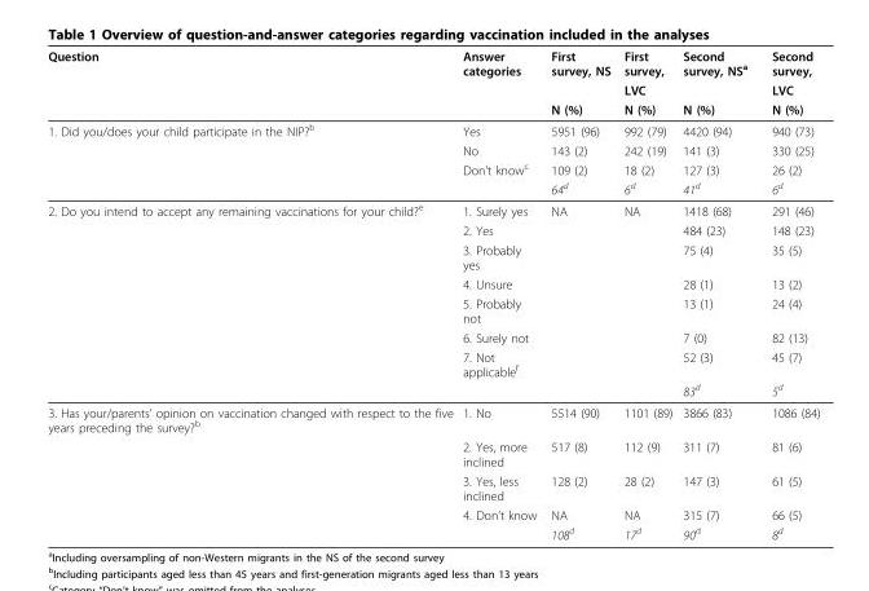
<table><thead><tr><td rowspan="3">Question</td><td rowspan="3">Answer categories</td><td rowspan="3">First survey, NS N (%)</td><td rowspan="3">First survey, LVC N (%)</td><td rowspan="3">Second survey, NSa N (%)</td><td rowspan="3">Second survey, LVC N (%)</td></tr><tr></tr><tr></tr></thead><tbody><tr><td rowspan="4">1. Did you/does your child participate in the NIP?b</td><td>Yes</td><td>5951 (96)</td><td>992 (79)</td><td>4420 (94)</td><td>940 (73)</td></tr><tr><td>No</td><td>143 (2)</td><td>242 (19)</td><td>141 (3)</td><td>330 (25)</td></tr><tr><td>Don’t knowc</td><td>109 (2)</td><td>18 (2)</td><td>127 (3)</td><td>26 (2)</td></tr><tr><td></td><td>64d</td><td>6d</td><td>41d</td><td>6d</td></tr><tr><td rowspan="8">2. Do you intend to accept any remaining vaccinations for your child?<sup>e</sup></td><td>1. Surely yes</td><td>NA</td><td>NA</td><td>1418 (68)</td><td>291 (46)</td></tr><tr><td>2. Yes</td><td></td><td></td><td>484 (23)</td><td>148 (23)</td></tr><tr><td>3. Probably yes</td><td></td><td></td><td>75 (4)</td><td>35 (5)</td></tr><tr><td>4. Unsure</td><td></td><td></td><td>28 (1)</td><td>13 (2)</td></tr><tr><td>5. Probably not</td><td></td><td></td><td>13 (1)</td><td>24 (4)</td></tr><tr><td>6. Surely not</td><td></td><td></td><td>7 (0)</td><td>82 (13)</td></tr><tr><td>7. Not applicable<sup>f</sup></td><td></td><td></td><td>52 (3)</td><td>45 (7)</td></tr><tr><td></td><td></td><td></td><td>83<sup>d</sup></td><td>5<sup>d</sup></td></tr><tr><td rowspan="5">3. Has your/parents’ opinion on vaccination changed with respect to the five years preceding the survey?<sup>b</sup></td><td>1. No</td><td>5514 (90)</td><td>1101 (89)</td><td>3866 (83)</td><td>1086 (84)</td></tr><tr><td>2. Yes, more inclined</td><td>517 (8)</td><td>112 (9)</td><td>311 (7)</td><td>81 (6)</td></tr><tr><td>3. Yes, less inclined</td><td>128 (2)</td><td>28 (2)</td><td>147 (3)</td><td>61 (5)</td></tr><tr><td>4. Don’t know</td><td>NA</td><td>NA</td><td>315 (7)</td><td>66 (5)</td></tr><tr><td></td><td>108<sup>d</sup></td><td>17<sup>d</sup></td><td>90<sup>d</sup></td><td>8<sup>d</sup></td></tr></tbody></table>